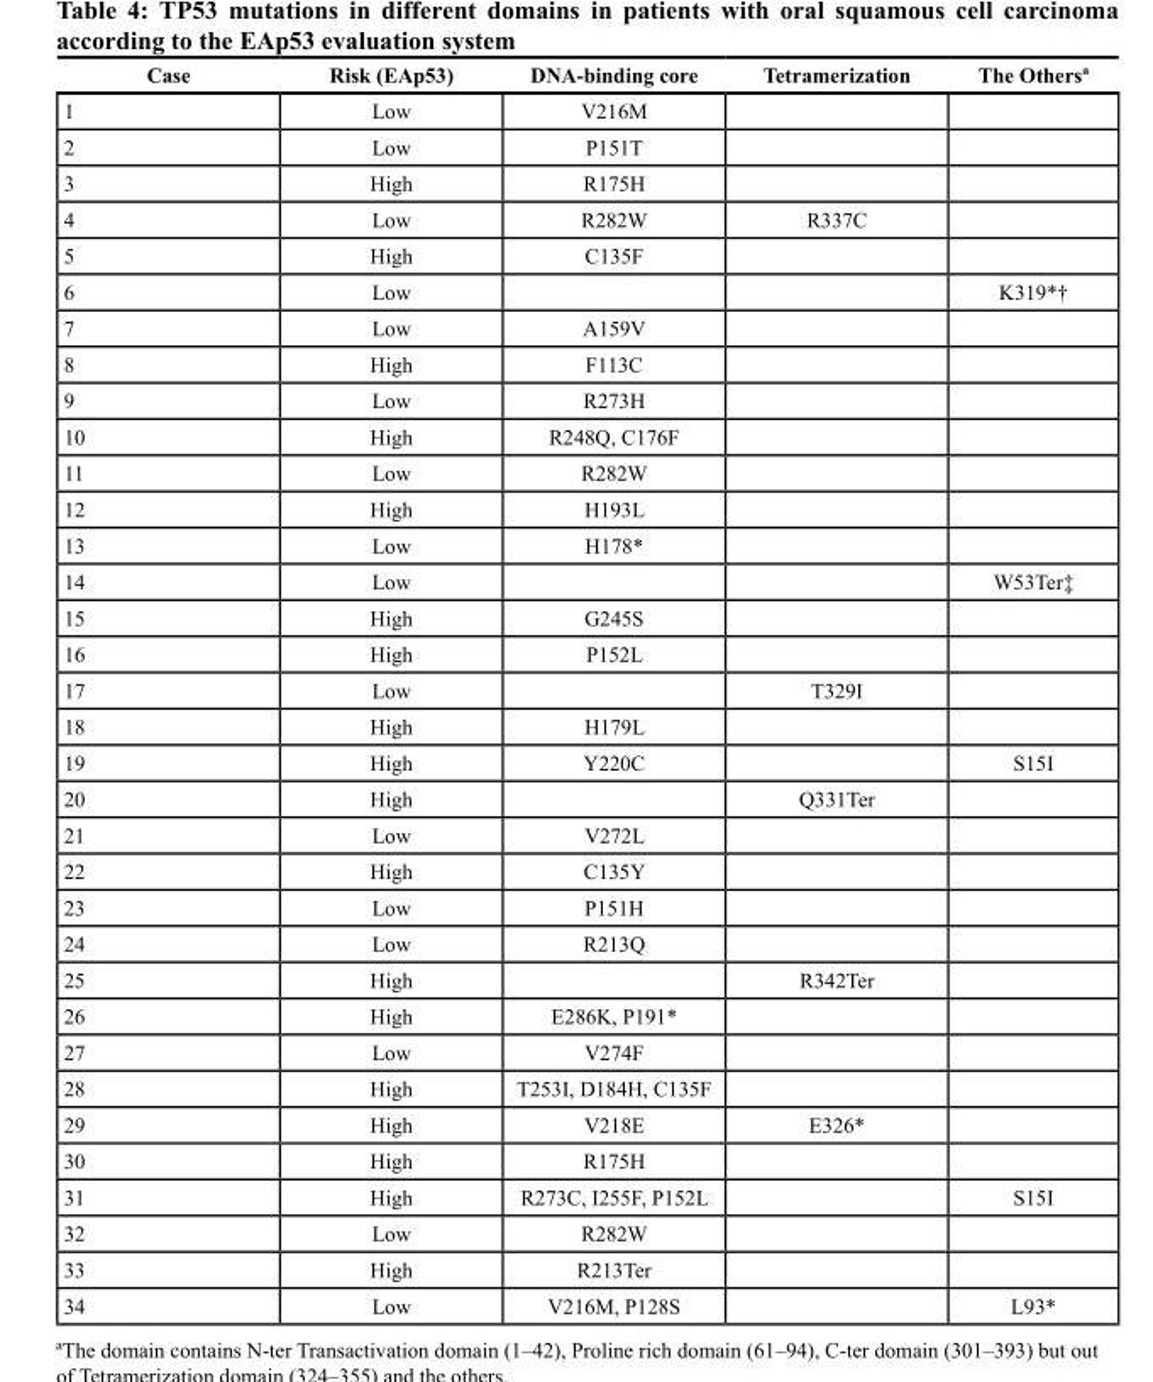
<table><thead><tr><td>Case</td><td>Risk (EAp53)</td><td>DNA-binding core</td><td>Tetramerization</td><td>The Others<sup>ª</sup></td></tr></thead><tbody><tr><td>1</td><td>Low</td><td>V216M</td><td></td><td></td></tr><tr><td>2</td><td>Low</td><td>P151T</td><td></td><td></td></tr><tr><td>3</td><td>High</td><td>R175H</td><td></td><td></td></tr><tr><td>4</td><td>Low</td><td>R282W</td><td>R337C</td><td></td></tr><tr><td>5</td><td>High</td><td>C135F</td><td></td><td></td></tr><tr><td>6</td><td>Low</td><td></td><td></td><td>K319*†</td></tr><tr><td>7</td><td>Low</td><td>A159V</td><td></td><td></td></tr><tr><td>8</td><td>High</td><td>F113C</td><td></td><td></td></tr><tr><td>9</td><td>Low</td><td>R273H</td><td></td><td></td></tr><tr><td>10</td><td>High</td><td>R248Q, C176F</td><td></td><td></td></tr><tr><td>11</td><td>Low</td><td>R282W</td><td></td><td></td></tr><tr><td>12</td><td>High</td><td>H193L</td><td></td><td></td></tr><tr><td>13</td><td>Low</td><td>H178*</td><td></td><td></td></tr><tr><td>14</td><td>Low</td><td></td><td></td><td>W53Ter‡</td></tr><tr><td>15</td><td>High</td><td>G245S</td><td></td><td></td></tr><tr><td>16</td><td>High</td><td>P152L</td><td></td><td></td></tr><tr><td>17</td><td>Low</td><td></td><td>T329I</td><td></td></tr><tr><td>18</td><td>High</td><td>H179L</td><td></td><td></td></tr><tr><td>19</td><td>High</td><td>Y220C</td><td></td><td>S15I</td></tr><tr><td>20</td><td>High</td><td></td><td>Q331Ter</td><td></td></tr><tr><td>21</td><td>Low</td><td>V272L</td><td></td><td></td></tr><tr><td>22</td><td>High</td><td>C135Y</td><td></td><td></td></tr><tr><td>23</td><td>Low</td><td>P151H</td><td></td><td></td></tr><tr><td>24</td><td>Low</td><td>R213Q</td><td></td><td></td></tr><tr><td>25</td><td>High</td><td></td><td>R342Ter</td><td></td></tr><tr><td>26</td><td>High</td><td>E286K, P191*</td><td></td><td></td></tr><tr><td>27</td><td>Low</td><td>V274F</td><td></td><td></td></tr><tr><td>28</td><td>High</td><td>T253I, D184H, C135F</td><td></td><td></td></tr><tr><td>29</td><td>High</td><td>V218E</td><td>E326*</td><td></td></tr><tr><td>30</td><td>High</td><td>R175H</td><td></td><td></td></tr><tr><td>31</td><td>High</td><td>R273C, I255F, P152L</td><td></td><td>S15I</td></tr><tr><td>32</td><td>Low</td><td>R282W</td><td></td><td></td></tr><tr><td>33</td><td>High</td><td>R213Ter</td><td></td><td></td></tr><tr><td>34</td><td>Low</td><td>V216M, P128S</td><td></td><td>L93*</td></tr></tbody></table>